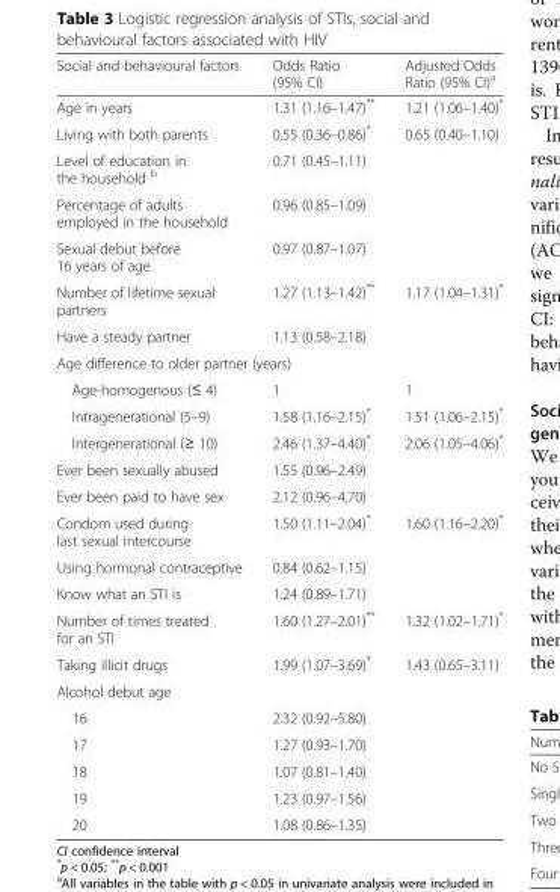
<table><thead><tr><td>Social and behavioural factors</td><td>Odds Ratio (95% CI)</td><td>Adjusted Odds Ratio (95% CI)<sup>a</sup></td></tr></thead><tbody><tr><td>Age in years</td><td>1.31 (1.16–1.47)**</td><td>1.21 (1.06–1.40)*</td></tr><tr><td>Living with both parents</td><td>0.55 (0.36–0.86)*</td><td>0.65 (0.40–1.10)</td></tr><tr><td>Level of education in the household <sup>b</sup></td><td>0.71 (0.45–1.11)</td><td></td></tr><tr><td>Percentage of adults employed in the household</td><td>0.96 (0.85–1.09)</td><td></td></tr><tr><td>Sexual debut before 16 years of age</td><td>0.97 (0.87–1.07)</td><td></td></tr><tr><td>Number of lifetime sexual partners</td><td>1.27 (1.13–1.42)**</td><td>1.17 (1.04–1.31)*</td></tr><tr><td>Have a steady partner</td><td>1.13 (0.58–2.18)</td><td></td></tr><tr><td colspan="3">Age difference to older partner (years)</td></tr><tr><td>Age-homogenous (≤ 4)</td><td>1</td><td>1</td></tr><tr><td>Intragenerational (5–9)</td><td>1.58 (1.16–2.15)*</td><td>1.51 (1.06–2.15)*</td></tr><tr><td>Intergenerational (≥ 10)</td><td>2.46 (1.37–4.40)*</td><td>2.06 (1.05–4.06)*</td></tr><tr><td>Ever been sexually abused</td><td>1.55 (0.96–2.49)</td><td></td></tr><tr><td>Ever been paid to have sex</td><td>2.12 (0.96–4.70)</td><td></td></tr><tr><td>Condom used during last sexual intercourse</td><td>1.50 (1.11–2.04)*</td><td>1.60 (1.16–2.20)*</td></tr><tr><td>Using hormonal contraceptive</td><td>0.84 (0.62–1.15)</td><td></td></tr><tr><td>Know what an STI is</td><td>1.24 (0.89–1.71)</td><td></td></tr><tr><td>Number of times treated for an STI</td><td>1.60 (1.27–2.01)**</td><td>1.32 (1.02–1.71)*</td></tr><tr><td>Taking illicit drugs</td><td>1.99 (1.07–3.69)*</td><td>1.43 (0.65–3.11)</td></tr><tr><td colspan="3">Alcohol debut age</td></tr><tr><td>16</td><td>2.32 (0.92–5.80)</td><td></td></tr><tr><td>17</td><td>1.27 (0.93–1.70)</td><td></td></tr><tr><td>18</td><td>1.07 (0.81–1.40)</td><td></td></tr><tr><td>19</td><td>1.23 (0.97–1.56)</td><td></td></tr><tr><td>20</td><td>1.08 (0.86–1.35)</td><td></td></tr></tbody></table>